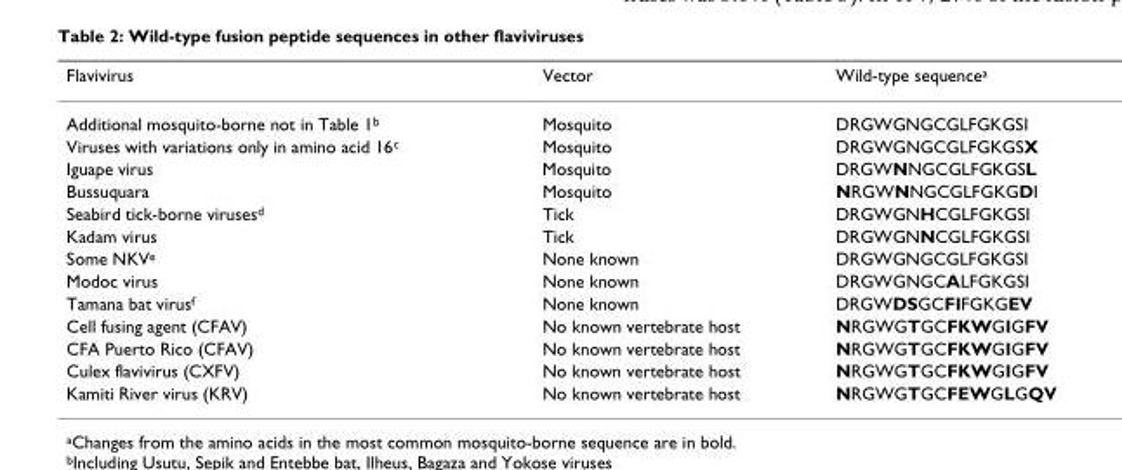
<table><thead><tr><td>Flavivirus</td><td>Vector</td><td>Wild-type sequence<sup>a</sup></td></tr></thead><tbody><tr><td>Additional mosquito-borne not in Table 1<sup>b</sup></td><td>Mosquito</td><td>DRGWGNGCGLFGKGSI</td></tr><tr><td>Viruses with variations only in amino acid 16<sup>c</sup></td><td>Mosquito</td><td>DRGWGNGCGLFGKGSX</td></tr><tr><td>Iguape virus</td><td>Mosquito</td><td>DRGWNNGCGLFGKGSL</td></tr><tr><td>Bussuquara</td><td>Mosquito</td><td>NRGWNNGCGLFGKGDI</td></tr><tr><td>Seabird tick-borne viruses<sup>d</sup></td><td>Tick</td><td>DRGWGNHCGLFGKGSI</td></tr><tr><td>Kadam virus</td><td>Tick</td><td>DRGWGNNCGLFGKGSI</td></tr><tr><td>Some NKV<sup>e</sup></td><td>None known</td><td>DRGWGNGCGLFGKGSI</td></tr><tr><td>Modoc virus</td><td>None known</td><td>DRGWGNGCALFGKGSI</td></tr><tr><td>Tamana bat virus<sup>f</sup></td><td>None known</td><td>DRGWDSGCFIFGKGEV</td></tr><tr><td>Cell fusing agent (CFAV)</td><td>No known vertebrate host</td><td>NRGWGTGCFKWGIGFV</td></tr><tr><td>CFA Puerto Rico (CFAV)</td><td>No known vertebrate host</td><td>NRGWGTGCFKWGIGFV</td></tr><tr><td>Culex flavivirus (CXFV)</td><td>No known vertebrate host</td><td>NRGWGTGCFKWGIGFV</td></tr><tr><td>Kamiti River virus (KRV)</td><td>No known vertebrate host</td><td>NRGWGTGCFEWGLGQV</td></tr></tbody></table>